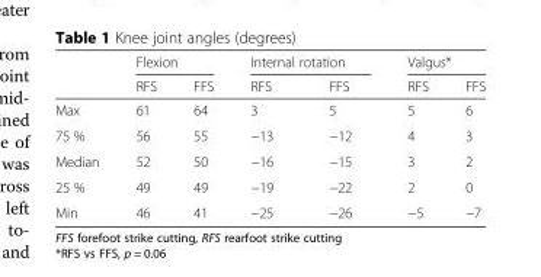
<table><thead><tr><td rowspan="2"></td><td colspan="2">Flexion</td><td colspan="2">Internal rotation</td><td colspan="2">Valgus*</td></tr><tr><td>RFS</td><td>FFS</td><td>RFS</td><td>FFS</td><td>RFS</td><td>FFS</td></tr></thead><tbody><tr><td>Max</td><td>61</td><td>64</td><td>3</td><td>5</td><td>5</td><td>6</td></tr><tr><td>75 %</td><td>56</td><td>55</td><td>−13</td><td>−12</td><td>4</td><td>3</td></tr><tr><td>Median</td><td>52</td><td>50</td><td>−16</td><td>−15</td><td>3</td><td>2</td></tr><tr><td>25 %</td><td>49</td><td>49</td><td>−19</td><td>−22</td><td>2</td><td>0</td></tr><tr><td>Min</td><td>46</td><td>41</td><td>−25</td><td>−26</td><td>−5</td><td>−7</td></tr></tbody></table>